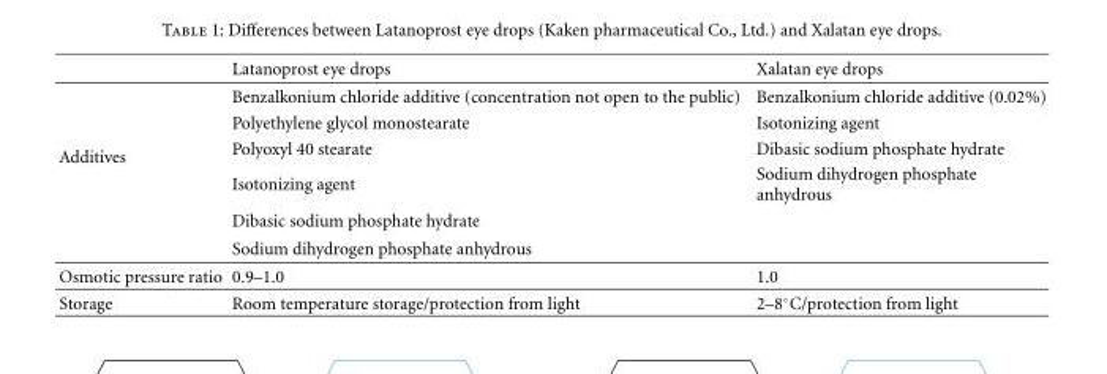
<table><thead><tr><td></td><td>Latanoprost eye drops</td><td>Xalatan eye drops</td></tr></thead><tbody><tr><td rowspan="6">Additives</td><td>Benzalkonium chloride additive (concentration not open to the public)</td><td>Benzalkonium chloride additive (0.02%)</td></tr><tr><td>Polyethylene glycol monostearate</td><td>Isotonizing agent</td></tr><tr><td>Polyoxyl 40 stearate</td><td>Dibasic sodium phosphate hydrate</td></tr><tr><td>Isotonizing agent</td><td>Sodium dihydrogen phosphate anhydrous</td></tr><tr><td>Dibasic sodium phosphate hydrate</td><td></td></tr><tr><td>Sodium dihydrogen phosphate anhydrous</td><td></td></tr><tr><td>Osmotic pressure ratio</td><td>0.9–1.0</td><td>1.0</td></tr><tr><td>Storage</td><td>Room temperature storage/protection from light</td><td>2–8◦C/protection from light</td></tr></tbody></table>